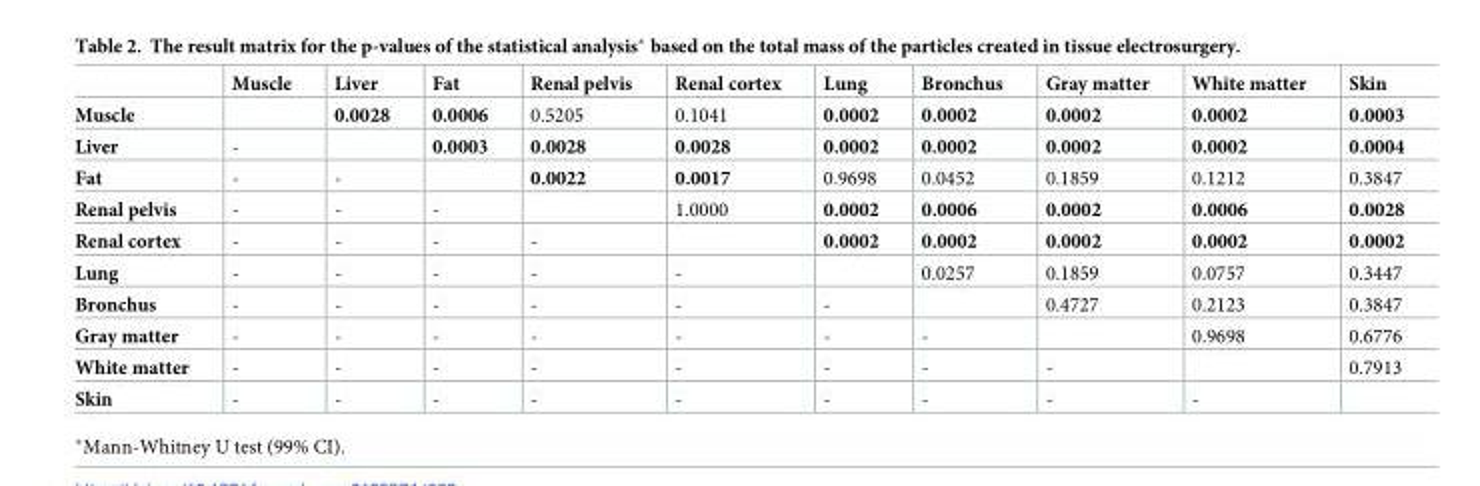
<table><thead><tr><td></td><td>Muscle</td><td>Liver</td><td>Fat</td><td>Renal pelvis</td><td>Renal cortex</td><td>Lung</td><td>Bronchus</td><td>Gray matter</td><td>White matter</td><td>Skin</td></tr></thead><tbody><tr><td>Muscle</td><td></td><td>0.0028</td><td>0.0006</td><td>0.5205</td><td>0.1041</td><td>0.0002</td><td>0.0002</td><td>0.0002</td><td>0.0002</td><td>0.0003</td></tr><tr><td>Liver</td><td>-</td><td></td><td>0.0003</td><td>0.0028</td><td>0.0028</td><td>0.0002</td><td>0.0002</td><td>0.0002</td><td>0.0002</td><td>0.0004</td></tr><tr><td>Fat</td><td>-</td><td>-</td><td></td><td>0.0022</td><td>0.0017</td><td>0.9698</td><td>0.0452</td><td>0.1859</td><td>0.1212</td><td>0.3847</td></tr><tr><td>Renal pelvis</td><td>-</td><td>-</td><td>-</td><td></td><td>1.0000</td><td>0.0002</td><td>0.0006</td><td>0.0002</td><td>0.0006</td><td>0.0028</td></tr><tr><td>Renal cortex</td><td>-</td><td>-</td><td>-</td><td>-</td><td></td><td>0.0002</td><td>0.0002</td><td>0.0002</td><td>0.0002</td><td>0.0002</td></tr><tr><td>Lung</td><td>-</td><td>-</td><td>-</td><td>-</td><td>-</td><td></td><td>0.0257</td><td>0.1859</td><td>0.0757</td><td>0.3447</td></tr><tr><td>Bronchus</td><td>-</td><td>-</td><td>-</td><td>-</td><td>-</td><td>-</td><td></td><td>0.4727</td><td>0.2123</td><td>0.3847</td></tr><tr><td>Gray matter</td><td>-</td><td>-</td><td>-</td><td>-</td><td>-</td><td>-</td><td>-</td><td></td><td>0.9698</td><td>0.6776</td></tr><tr><td>White matter</td><td>-</td><td>-</td><td>-</td><td>-</td><td>-</td><td>-</td><td>-</td><td>-</td><td></td><td>0.7913</td></tr><tr><td>Skin</td><td>-</td><td>-</td><td>-</td><td>-</td><td>-</td><td>-</td><td>-</td><td>-</td><td>-</td><td></td></tr></tbody></table>